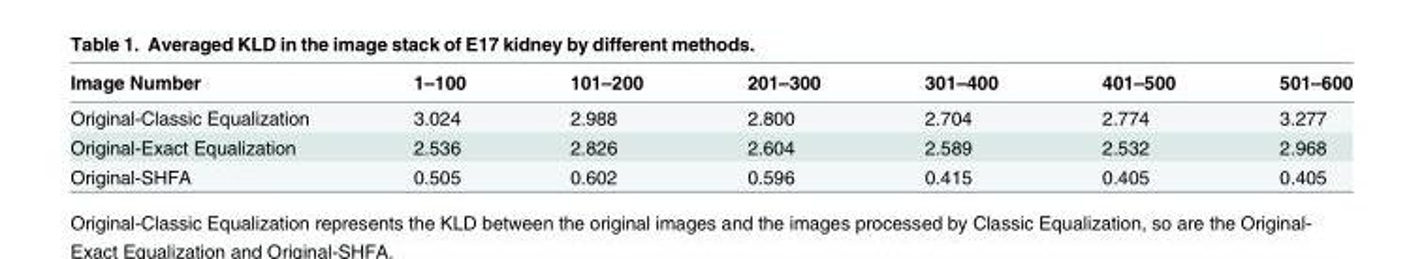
<table><thead><tr><td>Image Number</td><td>1–100</td><td>101–200</td><td>201–300</td><td>301–400</td><td>401–500</td><td>501–600</td></tr></thead><tbody><tr><td>Original-Classic Equalization</td><td>3.024</td><td>2.988</td><td>2.800</td><td>2.704</td><td>2.774</td><td>3.277</td></tr><tr><td>Original-Exact Equalization</td><td>2.536</td><td>2.826</td><td>2.604</td><td>2.589</td><td>2.532</td><td>2.968</td></tr><tr><td>Original-SHFA</td><td>0.505</td><td>0.602</td><td>0.596</td><td>0.415</td><td>0.405</td><td>0.405</td></tr></tbody></table>